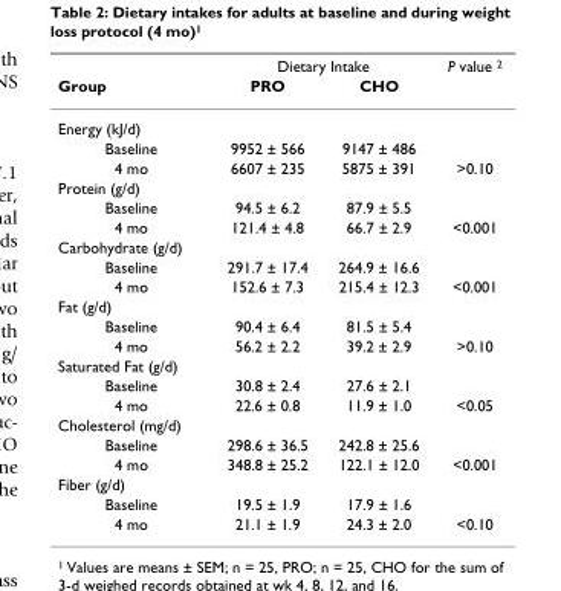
<table><thead><tr><td rowspan="2">Group</td><td colspan="2">Dietary Intake</td><td rowspan="2">P value <sup>2</sup></td></tr><tr><td>PRO</td><td>CHO</td></tr></thead><tbody><tr><td colspan="4">Energy (kJ/d)</td></tr><tr><td>Baseline</td><td>9952 ± 566</td><td>9147 ± 486</td><td></td></tr><tr><td>4 mo</td><td>6607 ± 235</td><td>5875 ± 391</td><td>&gt;0.10</td></tr><tr><td colspan="4">Protein (g/d)</td></tr><tr><td>Baseline</td><td>94.5 ± 6.2</td><td>87.9 ± 5.5</td><td></td></tr><tr><td>4 mo</td><td>121.4 ± 4.8</td><td>66.7 ± 2.9</td><td>&lt;0.001</td></tr><tr><td colspan="4">Carbohydrate (g/d)</td></tr><tr><td>Baseline</td><td>291.7 ± 17.4</td><td>264.9 ± 16.6</td><td></td></tr><tr><td>4 mo</td><td>152.6 ± 7.3</td><td>215.4 ± 12.3</td><td>&lt;0.001</td></tr><tr><td colspan="4">Fat (g/d)</td></tr><tr><td>Baseline</td><td>90.4 ± 6.4</td><td>81.5 ± 5.4</td><td></td></tr><tr><td>4 mo</td><td>56.2 ± 2.2</td><td>39.2 ± 2.9</td><td>&gt;0.10</td></tr><tr><td colspan="4">Saturated Fat (g/d)</td></tr><tr><td>Baseline</td><td>30.8 ± 2.4</td><td>27.6 ± 2.1</td><td></td></tr><tr><td>4 mo</td><td>22.6 ± 0.8</td><td>11.9 ± 1.0</td><td>&lt;0.05</td></tr><tr><td colspan="4">Cholesterol (mg/d)</td></tr><tr><td>Baseline</td><td>298.6 ± 36.5</td><td>242.8 ± 25.6</td><td></td></tr><tr><td>4 mo</td><td>348.8 ± 25.2</td><td>122.1 ± 12.0</td><td>&lt;0.001</td></tr><tr><td colspan="4">Fiber (g/d)</td></tr><tr><td>Baseline</td><td>19.5 ± 1.9</td><td>17.9 ± 1.6</td><td></td></tr><tr><td>4 mo</td><td>21.1 ± 1.9</td><td>24.3 ± 2.0</td><td>&lt;0.10</td></tr></tbody></table>